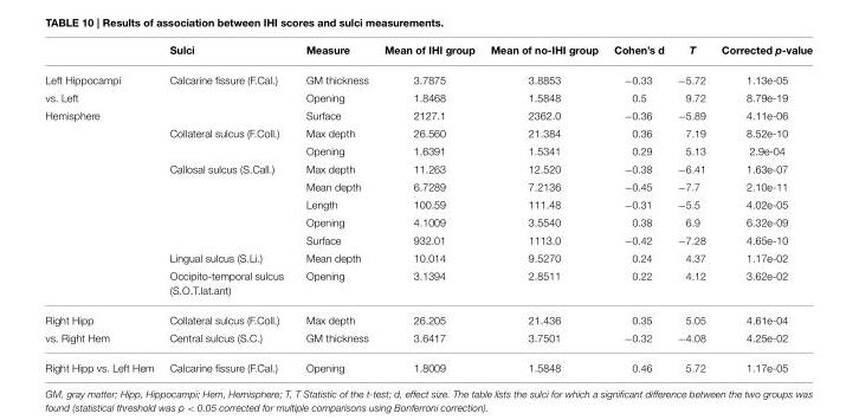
<table><thead><tr><td></td><td>Sulci</td><td>Measure</td><td>Mean of IHI group</td><td>Mean of no-IHI group</td><td>Cohen’s d</td><td>T</td><td>Corrected p-value</td></tr></thead><tbody><tr><td>Left Hippocampi</td><td>Calcarine fissure (F.Cal.)</td><td>GM thickness</td><td>3.7875</td><td>3.8853</td><td>−0.33</td><td>−5.72</td><td>1.13e-05</td></tr><tr><td>vs. Left</td><td></td><td>Opening</td><td>1.8468</td><td>1.5848</td><td>0.5</td><td>9.72</td><td>8.79e-19</td></tr><tr><td rowspan="10">Hemisphere</td><td></td><td>Surface</td><td>2127.1</td><td>2362.0</td><td>−0.36</td><td>−5.89</td><td>4.11e-06</td></tr><tr><td>Collateral sulcus (F.Coll.)</td><td>Max depth</td><td>26.560</td><td>21.384</td><td>0.36</td><td>7.19</td><td>8.52e-10</td></tr><tr><td></td><td>Opening</td><td>1.6391</td><td>1.5341</td><td>0.29</td><td>5.13</td><td>2.9e-04</td></tr><tr><td>Callosal sulcus (S.Call.)</td><td>Max depth</td><td>11.263</td><td>12.520</td><td>−0.38</td><td>−6.41</td><td>1.63e-07</td></tr><tr><td></td><td>Mean depth</td><td>6.7289</td><td>7.2136</td><td>−0.45</td><td>−7.7</td><td>2.10e-11</td></tr><tr><td></td><td>Length</td><td>100.59</td><td>111.48</td><td>−0.31</td><td>−5.5</td><td>4.02e-05</td></tr><tr><td></td><td>Opening</td><td>4.1009</td><td>3.5540</td><td>0.38</td><td>6.9</td><td>6.32e-09</td></tr><tr><td></td><td>Surface</td><td>932.01</td><td>1113.0</td><td>−0.42</td><td>−7.28</td><td>4.65e-10</td></tr><tr><td>Lingual sulcus (S.Li.)</td><td>Mean depth</td><td>10.014</td><td>9.5270</td><td>0.24</td><td>4.37</td><td>1.17e-02</td></tr><tr><td>Occipito-temporal sulcus (S.O.T.lat.ant)</td><td>Opening</td><td>3.1394</td><td>2.8511</td><td>0.22</td><td>4.12</td><td>3.62e-02</td></tr><tr><td>Right Hipp</td><td>Collateral sulcus (F.Coll.)</td><td>Max depth</td><td>26.205</td><td>21.436</td><td>0.35</td><td>5.05</td><td>4.61e-04</td></tr><tr><td>vs. Right Hem</td><td>Central sulcus (S.C.)</td><td>GM thickness</td><td>3.6417</td><td>3.7501</td><td>−0.32</td><td>−4.08</td><td>4.25e-02</td></tr><tr><td>Right Hipp vs. Left Hem</td><td>Calcarine fissure (F.Cal.)</td><td>Opening</td><td>1.8009</td><td>1.5848</td><td>0.46</td><td>5.72</td><td>1.17e-05</td></tr></tbody></table>